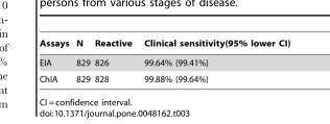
<table><thead><tr><td>Assays</td><td>N</td><td>Reactive</td><td>Clinical sensitivity(95% lower CI)</td></tr></thead><tbody><tr><td>EIA</td><td>829</td><td>826</td><td>99.64% (99.41%)</td></tr><tr><td>ChIA</td><td>829</td><td>828</td><td>99.88% (99.64%)</td></tr></tbody></table>